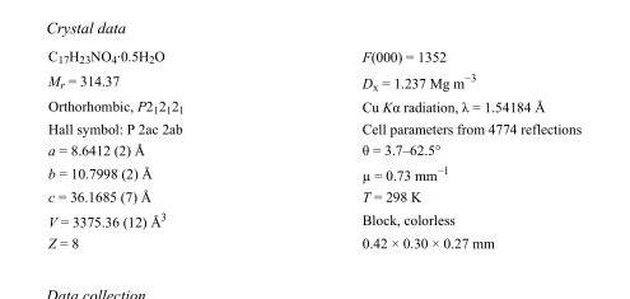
<table><tbody><tr><td>C<sub>17</sub>H<sub>23</sub>NO<sub>4</sub>·0.5H<sub>2</sub>O</td><td>F(000) = 1352</td></tr><tr><td>M<sub>r</sub> = 314.37</td><td>D<sub>x</sub> = 1.237 Mg m<sup>−3</sup></td></tr><tr><td>Orthorhombic, P2<sub>1</sub>2<sub>1</sub>2<sub>1</sub></td><td>Cu Kα radiation, λ = 1.54184 Å</td></tr><tr><td>Hall symbol: P 2ac 2ab</td><td>Cell parameters from 4774 reflections</td></tr><tr><td>a = 8.6412 (2) Å</td><td>θ = 3.7–62.5°</td></tr><tr><td>b = 10.7998 (2) Å</td><td>µ = 0.73 mm<sup>−1</sup></td></tr><tr><td>c = 36.1685 (7) Å</td><td>T = 298 K</td></tr><tr><td>V = 3375.36 (12) Å<sup>3</sup></td><td>Block, colorless</td></tr><tr><td>Z = 8</td><td>0.42 × 0.30 × 0.27 mm</td></tr></tbody></table>